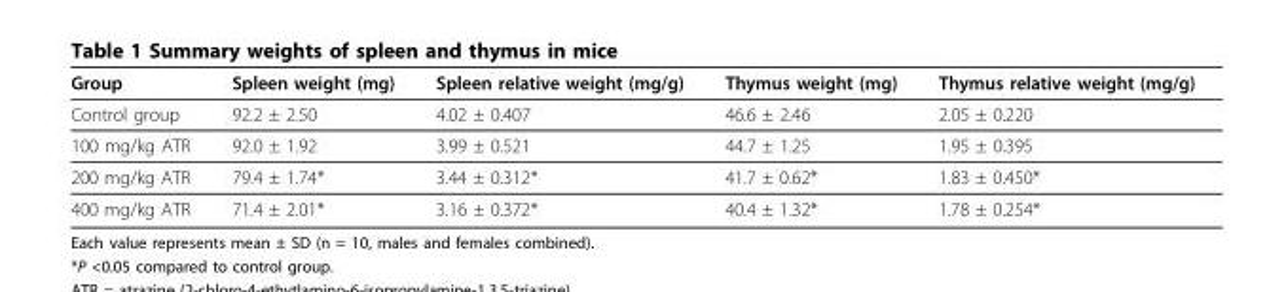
<table><thead><tr><td>Group</td><td>Spleen weight (mg)</td><td>Spleen relative weight (mg/g)</td><td>Thymus weight (mg)</td><td>Thymus relative weight (mg/g)</td></tr></thead><tbody><tr><td>Control group</td><td>92.2 ± 2.50</td><td>4.02 ± 0.407</td><td>46.6 ± 2.46</td><td>2.05 ± 0.220</td></tr><tr><td>100 mg/kg ATR</td><td>92.0 ± 1.92</td><td>3.99 ± 0.521</td><td>44.7 ± 1.25</td><td>1.95 ± 0.395</td></tr><tr><td>200 mg/kg ATR</td><td>79.4 ± 1.74*</td><td>3.44 ± 0.312*</td><td>41.7 ± 0.62*</td><td>1.83 ± 0.450*</td></tr><tr><td>400 mg/kg ATR</td><td>71.4 ± 2.01*</td><td>3.16 ± 0.372*</td><td>40.4 ± 1.32*</td><td>1.78 ± 0.254*</td></tr></tbody></table>